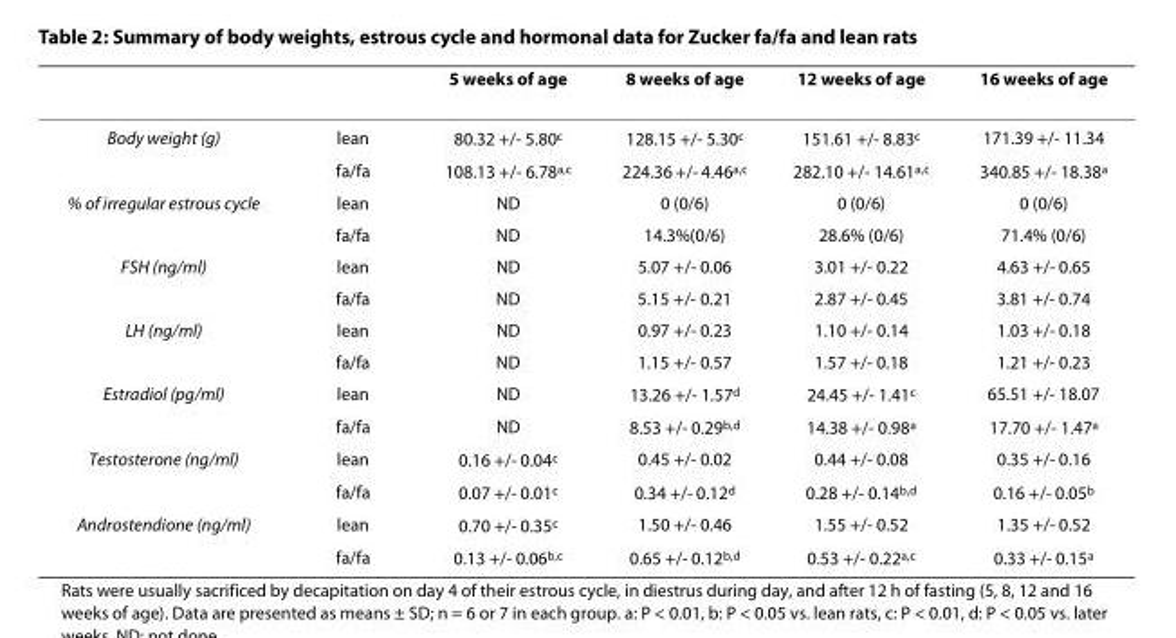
<table><thead><tr><td></td><td></td><td>5 weeks of age</td><td>8 weeks of age</td><td>12 weeks of age</td><td>16 weeks of age</td></tr></thead><tbody><tr><td rowspan="2">Body weight (g)</td><td>lean</td><td>80.32 +/- 5.80<sup>c</sup></td><td>128.15 +/- 5.30<sup>c</sup></td><td>151.61 +/- 8.83<sup>c</sup></td><td>171.39 +/- 11.34</td></tr><tr><td>fa/fa</td><td>108.13 +/- 6.78<sup>a,c</sup></td><td>224.36 +/- 4.46<sup>a,c</sup></td><td>282.10 +/- 14.61<sup>a,c</sup></td><td>340.85 +/- 18.38<sup>a</sup></td></tr><tr><td rowspan="2">% of irregular estrous cycle</td><td>lean</td><td>ND</td><td>0 (0/6)</td><td>0 (0/6)</td><td>0 (0/6)</td></tr><tr><td>fa/fa</td><td>ND</td><td>14.3%(0/6)</td><td>28.6% (0/6)</td><td>71.4% (0/6)</td></tr><tr><td rowspan="2">FSH (ng/ml)</td><td>lean</td><td>ND</td><td>5.07 +/- 0.06</td><td>3.01 +/- 0.22</td><td>4.63 +/- 0.65</td></tr><tr><td>fa/fa</td><td>ND</td><td>5.15 +/- 0.21</td><td>2.87 +/- 0.45</td><td>3.81 +/- 0.74</td></tr><tr><td rowspan="2">LH (ng/ml)</td><td>lean</td><td>ND</td><td>0.97 +/- 0.23</td><td>1.10 +/- 0.14</td><td>1.03 +/- 0.18</td></tr><tr><td>fa/fa</td><td>ND</td><td>1.15 +/- 0.57</td><td>1.57 +/- 0.18</td><td>1.21 +/- 0.23</td></tr><tr><td rowspan="2">Estradiol (pg/ml)</td><td>lean</td><td>ND</td><td>13.26 +/- 1.57<sup>d</sup></td><td>24.45 +/- 1.41<sup>c</sup></td><td>65.51 +/- 18.07</td></tr><tr><td>fa/fa</td><td>ND</td><td>8.53 +/- 0.29<sup>b,d</sup></td><td>14.38 +/- 0.98<sup>a</sup></td><td>17.70 +/- 1.47<sup>a</sup></td></tr><tr><td rowspan="2">Testosterone (ng/ml)</td><td>lean</td><td>0.16 +/- 0.04<sup>c</sup></td><td>0.45 +/- 0.02</td><td>0.44 +/- 0.08</td><td>0.35 +/- 0.16</td></tr><tr><td>fa/fa</td><td>0.07 +/- 0.01<sup>c</sup></td><td>0.34 +/- 0.12<sup>d</sup></td><td>0.28 +/- 0.14<sup>b,d</sup></td><td>0.16 +/- 0.05<sup>b</sup></td></tr><tr><td rowspan="2">Androstendione (ng/ml)</td><td>lean</td><td>0.70 +/- 0.35<sup>c</sup></td><td>1.50 +/- 0.46</td><td>1.55 +/- 0.52</td><td>1.35 +/- 0.52</td></tr><tr><td>fa/fa</td><td>0.13 +/- 0.06<sup>b,c</sup></td><td>0.65 +/- 0.12<sup>b,d</sup></td><td>0.53 +/- 0.22<sup>a,c</sup></td><td>0.33 +/- 0.15<sup>a</sup></td></tr></tbody></table>